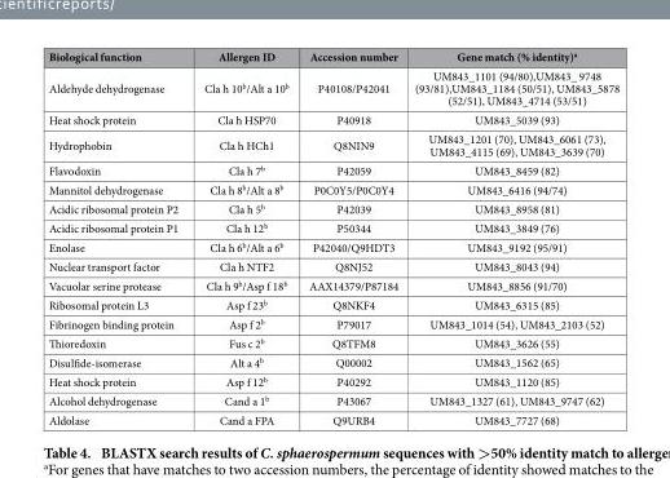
<table><thead><tr><td>Biological function</td><td>Allergen ID</td><td>Accession number</td><td>Gene match (% identity)<sup>a</sup></td></tr></thead><tbody><tr><td>Aldehyde dehydrogenase</td><td>Cla h 10<sup>b</sup>/Alt a 10<sup>b</sup></td><td>P40108/P42041</td><td>UM843_1101 (94/80),UM843_ 9748 (93/81),UM843_1184 (50/51), UM843_5878 (52/51), UM843_4714 (53/51)</td></tr><tr><td>Heat shock protein</td><td>Cla h HSP70</td><td>P40918</td><td>UM843_5039 (93)</td></tr><tr><td>Hydrophobin</td><td>Cla h HCh1</td><td>Q8NIN9</td><td>UM843_1201 (70), UM843_6061 (73), UM843_4115 (69), UM843_3639 (70)</td></tr><tr><td>Flavodoxin</td><td>Cla h 7<sup>b</sup></td><td>P42059</td><td>UM843_8459 (82)</td></tr><tr><td>Mannitol dehydrogenase</td><td>Cla h 8<sup>b</sup>/Alt a 8<sup>b</sup></td><td>P0C0Y5/P0C0Y4</td><td>UM843_6416 (94/74)</td></tr><tr><td>Acidic ribosomal protein P2</td><td>Cla h 5<sup>b</sup></td><td>P42039</td><td>UM843_8958 (81)</td></tr><tr><td>Acidic ribosomal protein P1</td><td>Cla h 12<sup>b</sup></td><td>P50344</td><td>UM843_3849 (76)</td></tr><tr><td>Enolase</td><td>Cla h 6<sup>b</sup>/Alt a 6<sup>b</sup></td><td>P42040/Q9HDT3</td><td>UM843_9192 (95/91)</td></tr><tr><td>Nuclear transport factor</td><td>Cla h NTF2</td><td>Q8NJ52</td><td>UM843_8043 (94)</td></tr><tr><td>Vacuolar serine protease</td><td>Cla h 9<sup>b</sup>/Asp f 18<sup>b</sup></td><td>AAX14379/P87184</td><td>UM843_8856 (91/70)</td></tr><tr><td>Ribosomal protein L3</td><td>Asp f 23<sup>b</sup></td><td>Q8NKF4</td><td>UM843_6315 (85)</td></tr><tr><td>Fibrinogen binding protein</td><td>Asp f 2<sup>b</sup></td><td>P79017</td><td>UM843_1014 (54), UM843_2103 (52)</td></tr><tr><td>Thioredoxin</td><td>Fus c 2<sup>b</sup></td><td>Q8TFM8</td><td>UM843_3626 (55)</td></tr><tr><td>Disulfide-isomerase</td><td>Alt a 4<sup>b</sup></td><td>Q00002</td><td>UM843_1562 (65)</td></tr><tr><td>Heat shock protein</td><td>Asp f 12<sup>b</sup></td><td>P40292</td><td>UM843_1120 (85)</td></tr><tr><td>Alcohol dehydrogenase</td><td>Cand a 1<sup>b</sup></td><td>P43067</td><td>UM843_1327 (61), UM843_9747 (62)</td></tr><tr><td>Aldolase</td><td>Cand a FPA</td><td>Q9URB4</td><td>UM843_7727 (68)</td></tr></tbody></table>